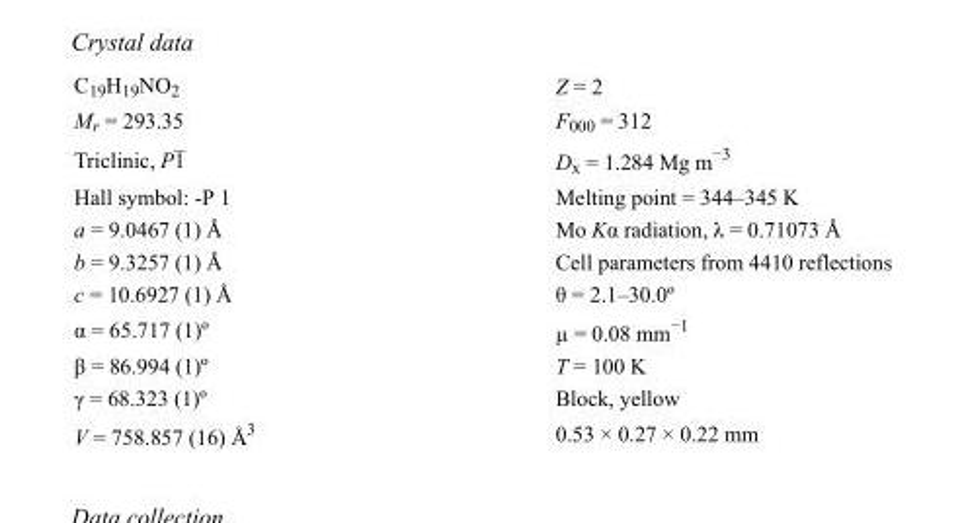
<table><tbody><tr><td>C<sub>19</sub>H<sub>19</sub>NO<sub>2</sub></td><td>Z = 2</td></tr><tr><td>M<sub>r</sub> = 293.35</td><td>F000 = 312</td></tr><tr><td>Triclinic, P1</td><td>D<sub>x</sub> = 1.284 Mg m<sup>−3</sup></td></tr><tr><td>Hall symbol: -P 1</td><td>Melting point = 344–345 K</td></tr><tr><td>a = 9.0467 (1) Å</td><td>Mo Kα radiation, λ = 0.71073 Å</td></tr><tr><td>b = 9.3257 (1) Å</td><td>Cell parameters from 4410 reflections</td></tr><tr><td>c = 10.6927 (1) Å</td><td>θ = 2.1–30.0º</td></tr><tr><td>α = 65.717 (1)º</td><td>µ = 0.08 mm<sup>−1</sup></td></tr><tr><td>β = 86.994 (1)º</td><td>T = 100 K</td></tr><tr><td>γ = 68.323 (1)º</td><td>Block, yellow</td></tr><tr><td>V = 758.857 (16) Å3</td><td>0.53 × 0.27 × 0.22 mm</td></tr></tbody></table>